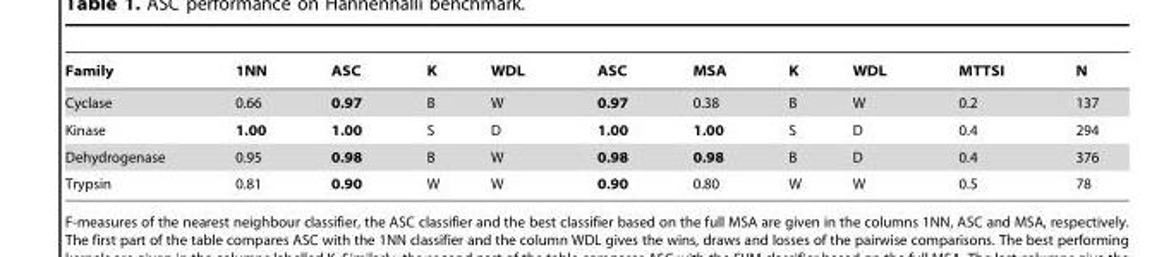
<table><thead><tr><td>Family</td><td>1NN</td><td>ASC</td><td>K</td><td>WDL</td><td>ASC</td><td>MSA</td><td>K</td><td>WDL</td><td>MTTSI</td><td>N</td></tr></thead><tbody><tr><td>Cyclase</td><td>0.66</td><td>0.97</td><td>B</td><td>W</td><td>0.97</td><td>0.38</td><td>B</td><td>W</td><td>0.2</td><td>137</td></tr><tr><td>Kinase</td><td>1.00</td><td>1.00</td><td>S</td><td>D</td><td>1.00</td><td>1.00</td><td>S</td><td>D</td><td>0.4</td><td>294</td></tr><tr><td>Dehydrogenase</td><td>0.95</td><td>0.98</td><td>B</td><td>W</td><td>0.98</td><td>0.98</td><td>B</td><td>D</td><td>0.4</td><td>376</td></tr><tr><td>Trypsin</td><td>0.81</td><td>0.90</td><td>W</td><td>W</td><td>0.90</td><td>0.80</td><td>W</td><td>W</td><td>0.5</td><td>78</td></tr></tbody></table>